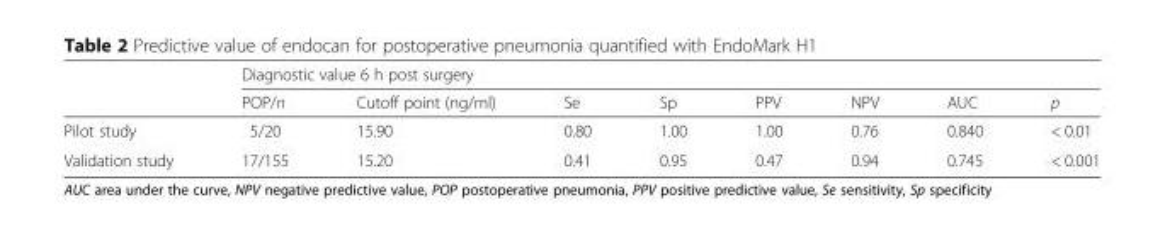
<table><thead><tr><td rowspan="2"></td><td colspan="8">Diagnostic value 6 h post surgery</td></tr><tr><td>POP/n</td><td>Cutoff point (ng/ml)</td><td>Se</td><td>Sp</td><td>PPV</td><td>NPV</td><td>AUC</td><td>p</td></tr></thead><tbody><tr><td>Pilot study</td><td>5/20</td><td>15.90</td><td>0.80</td><td>1.00</td><td>1.00</td><td>0.76</td><td>0.840</td><td>&lt; 0.01</td></tr><tr><td>Validation study</td><td>17/155</td><td>15.20</td><td>0.41</td><td>0.95</td><td>0.47</td><td>0.94</td><td>0.745</td><td>&lt; 0.001</td></tr></tbody></table>